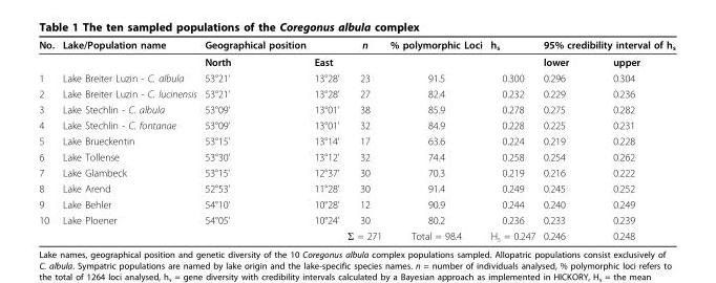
<table><thead><tr><td rowspan="2">No.</td><td rowspan="2">Lake/Population name</td><td rowspan="2">Geographical position North</td><td rowspan="2">East</td><td rowspan="2">n</td><td rowspan="2">% polymorphic Loci</td><td rowspan="2">h<sub>s</sub></td><td colspan="2">95% credibility interval of h<sub>s</sub></td></tr><tr><td>lower</td><td>upper</td></tr></thead><tbody><tr><td>1</td><td>Lake Breiter Luzin - C. albula</td><td>53°21’</td><td>13°28’</td><td>23</td><td>91.5</td><td>0.300</td><td>0.296</td><td>0.304</td></tr><tr><td>2</td><td>Lake Breiter Luzin - C. lucinensis</td><td>53°21’</td><td>13°28’</td><td>27</td><td>82.4</td><td>0.232</td><td>0.229</td><td>0.236</td></tr><tr><td>3</td><td>Lake Stechlin - C. albula</td><td>53°09’</td><td>13°01’</td><td>38</td><td>85.9</td><td>0.278</td><td>0.275</td><td>0.282</td></tr><tr><td>4</td><td>Lake Stechlin - C. fontanae</td><td>53°09’</td><td>13°01’</td><td>32</td><td>84.9</td><td>0.228</td><td>0.225</td><td>0.231</td></tr><tr><td>5</td><td>Lake Brueckentin</td><td>53°15’</td><td>13°14’</td><td>17</td><td>63.6</td><td>0.224</td><td>0.219</td><td>0.228</td></tr><tr><td>6</td><td>Lake Tollense</td><td>53°30’</td><td>13°12’</td><td>32</td><td>74.4</td><td>0.258</td><td>0.254</td><td>0.262</td></tr><tr><td>7</td><td>Lake Glambeck</td><td>53°15’</td><td>12°37’</td><td>30</td><td>70.3</td><td>0.219</td><td>0.216</td><td>0.222</td></tr><tr><td>8</td><td>Lake Arend</td><td>52°53’</td><td>11°28’</td><td>30</td><td>91.4</td><td>0.249</td><td>0.245</td><td>0.252</td></tr><tr><td>9</td><td>Lake Behler</td><td>54°10’</td><td>10°28’</td><td>12</td><td>90.9</td><td>0.244</td><td>0.240</td><td>0.249</td></tr><tr><td rowspan="2">10</td><td>Lake Ploener</td><td>54°05’</td><td>10°24’</td><td>30</td><td>80.2</td><td>0.236</td><td>0.233</td><td>0.239</td></tr><tr><td></td><td></td><td></td><td>Σ = 271</td><td>Total = 98.4</td><td>H<sub>s</sub> = 0.247</td><td>0.246</td><td>0.248</td></tr></tbody></table>